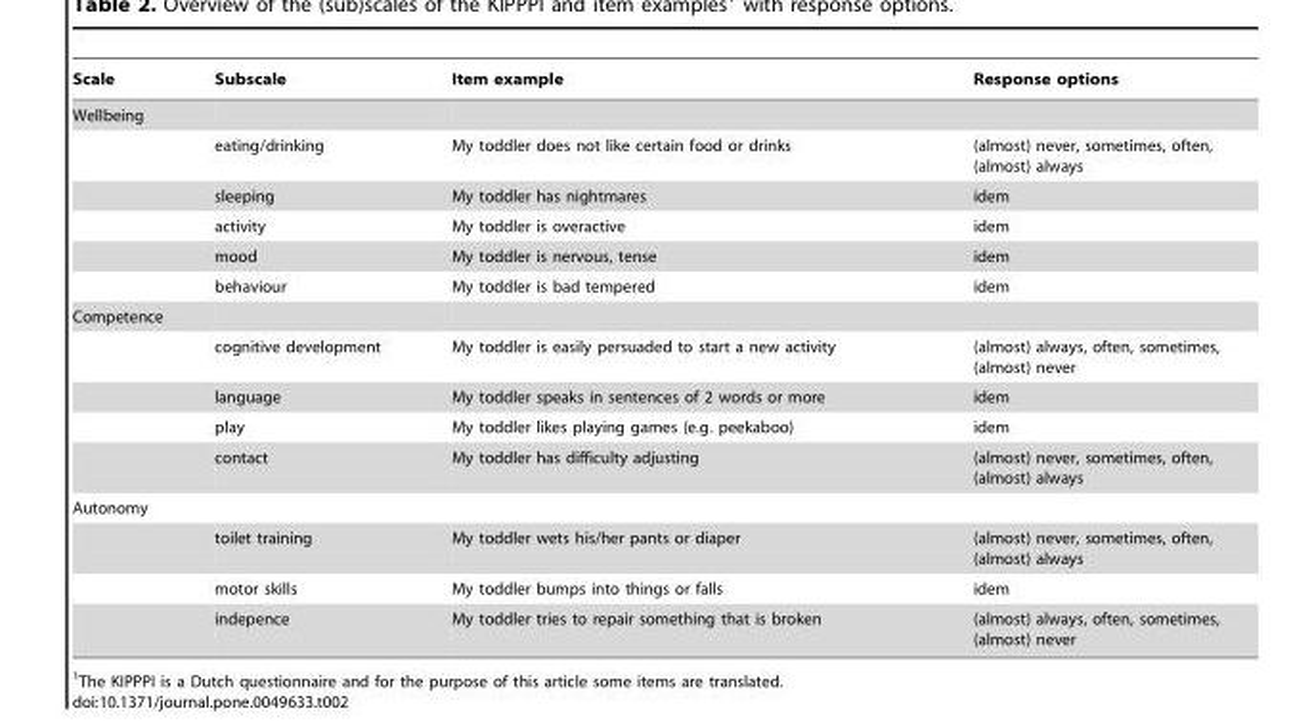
<table><thead><tr><td>Scale</td><td>Subscale</td><td>Item example</td><td>Response options</td></tr></thead><tbody><tr><td colspan="4">Wellbeing</td></tr><tr><td></td><td>eating/drinking</td><td>My toddler does not like certain food or drinks</td><td>(almost) never, sometimes, often, (almost) always</td></tr><tr><td></td><td>sleeping</td><td>My toddler has nightmares</td><td>idem</td></tr><tr><td></td><td>activity</td><td>My toddler is overactive</td><td>idem</td></tr><tr><td></td><td>mood</td><td>My toddler is nervous, tense</td><td>idem</td></tr><tr><td></td><td>behaviour</td><td>My toddler is bad tempered</td><td>idem</td></tr><tr><td colspan="4">Competence</td></tr><tr><td></td><td>cognitive development</td><td>My toddler is easily persuaded to start a new activity</td><td>(almost) always, often, sometimes, (almost) never</td></tr><tr><td></td><td>language</td><td>My toddler speaks in sentences of 2 words or more</td><td>idem</td></tr><tr><td></td><td>play</td><td>My toddler likes playing games (e.g. peekaboo)</td><td>idem</td></tr><tr><td></td><td>contact</td><td>My toddler has difficulty adjusting</td><td>(almost) never, sometimes, often, (almost) always</td></tr><tr><td colspan="4">Autonomy</td></tr><tr><td></td><td>toilet training</td><td>My toddler wets his/her pants or diaper</td><td>(almost) never, sometimes, often, (almost) always</td></tr><tr><td></td><td>motor skills</td><td>My toddler bumps into things or falls</td><td>idem</td></tr><tr><td></td><td>indepence</td><td>My toddler tries to repair something that is broken</td><td>(almost) always, often, sometimes, (almost) never</td></tr></tbody></table>